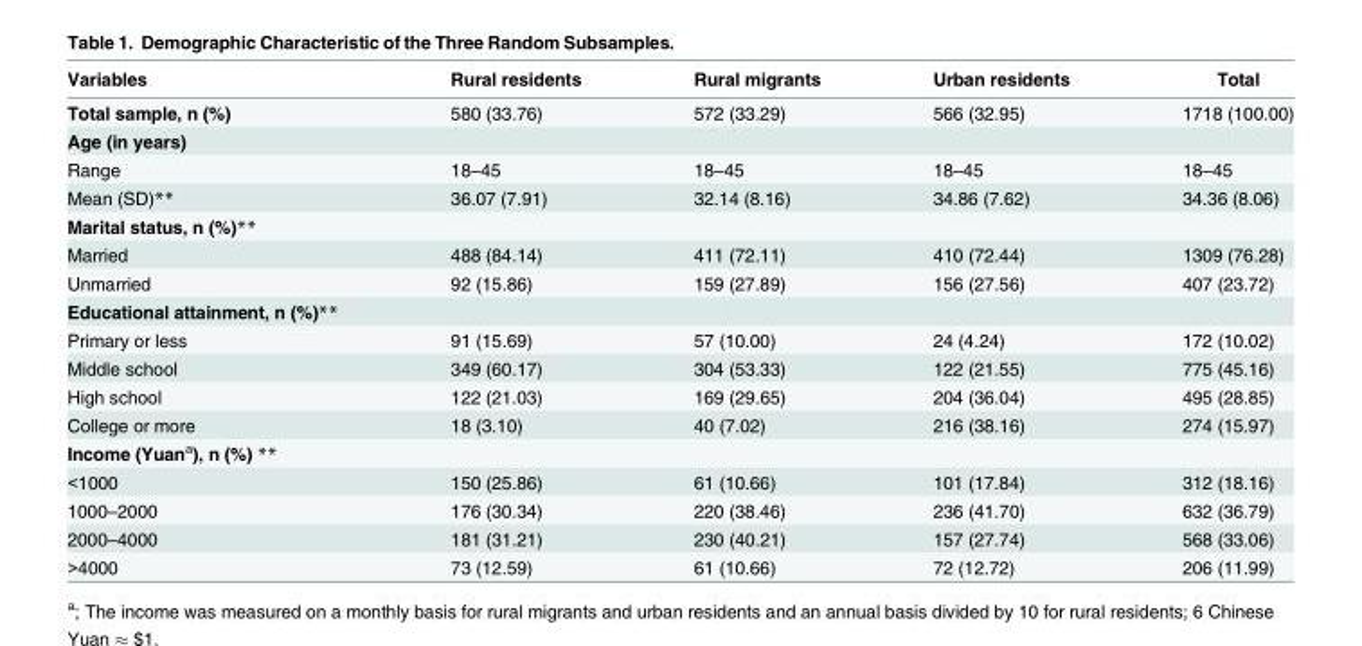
<table><thead><tr><td>Variables</td><td>Rural residents</td><td>Rural migrants</td><td>Urban residents</td><td>Total</td></tr></thead><tbody><tr><td>Total sample, n (%)</td><td>580 (33.76)</td><td>572 (33.29)</td><td>566 (32.95)</td><td>1718 (100.00)</td></tr><tr><td colspan="5">Age (in years)</td></tr><tr><td>Range</td><td>18–45</td><td>18–45</td><td>18–45</td><td>18–45</td></tr><tr><td>Mean (SD)**</td><td>36.07 (7.91)</td><td>32.14 (8.16)</td><td>34.86 (7.62)</td><td>34.36 (8.06)</td></tr><tr><td colspan="5">Marital status, n (%)**</td></tr><tr><td>Married</td><td>488 (84.14)</td><td>411 (72.11)</td><td>410 (72.44)</td><td>1309 (76.28)</td></tr><tr><td>Unmarried</td><td>92 (15.86)</td><td>159 (27.89)</td><td>156 (27.56)</td><td>407 (23.72)</td></tr><tr><td colspan="5">Educational attainment, n (%)**</td></tr><tr><td>Primary or less</td><td>91 (15.69)</td><td>57 (10.00)</td><td>24 (4.24)</td><td>172 (10.02)</td></tr><tr><td>Middle school</td><td>349 (60.17)</td><td>304 (53.33)</td><td>122 (21.55)</td><td>775 (45.16)</td></tr><tr><td>High school</td><td>122 (21.03)</td><td>169 (29.65)</td><td>204 (36.04)</td><td>495 (28.85)</td></tr><tr><td>College or more</td><td>18 (3.10)</td><td>40 (7.02)</td><td>216 (38.16)</td><td>274 (15.97)</td></tr><tr><td colspan="5">Income (Yuan<sup>a</sup>), n (%) **</td></tr><tr><td>&lt;1000</td><td>150 (25.86)</td><td>61 (10.66)</td><td>101 (17.84)</td><td>312 (18.16)</td></tr><tr><td>1000–2000</td><td>176 (30.34)</td><td>220 (38.46)</td><td>236 (41.70)</td><td>632 (36.79)</td></tr><tr><td>2000–4000</td><td>181 (31.21)</td><td>230 (40.21)</td><td>157 (27.74)</td><td>568 (33.06)</td></tr><tr><td>&gt;4000</td><td>73 (12.59)</td><td>61 (10.66)</td><td>72 (12.72)</td><td>206 (11.99)</td></tr></tbody></table>